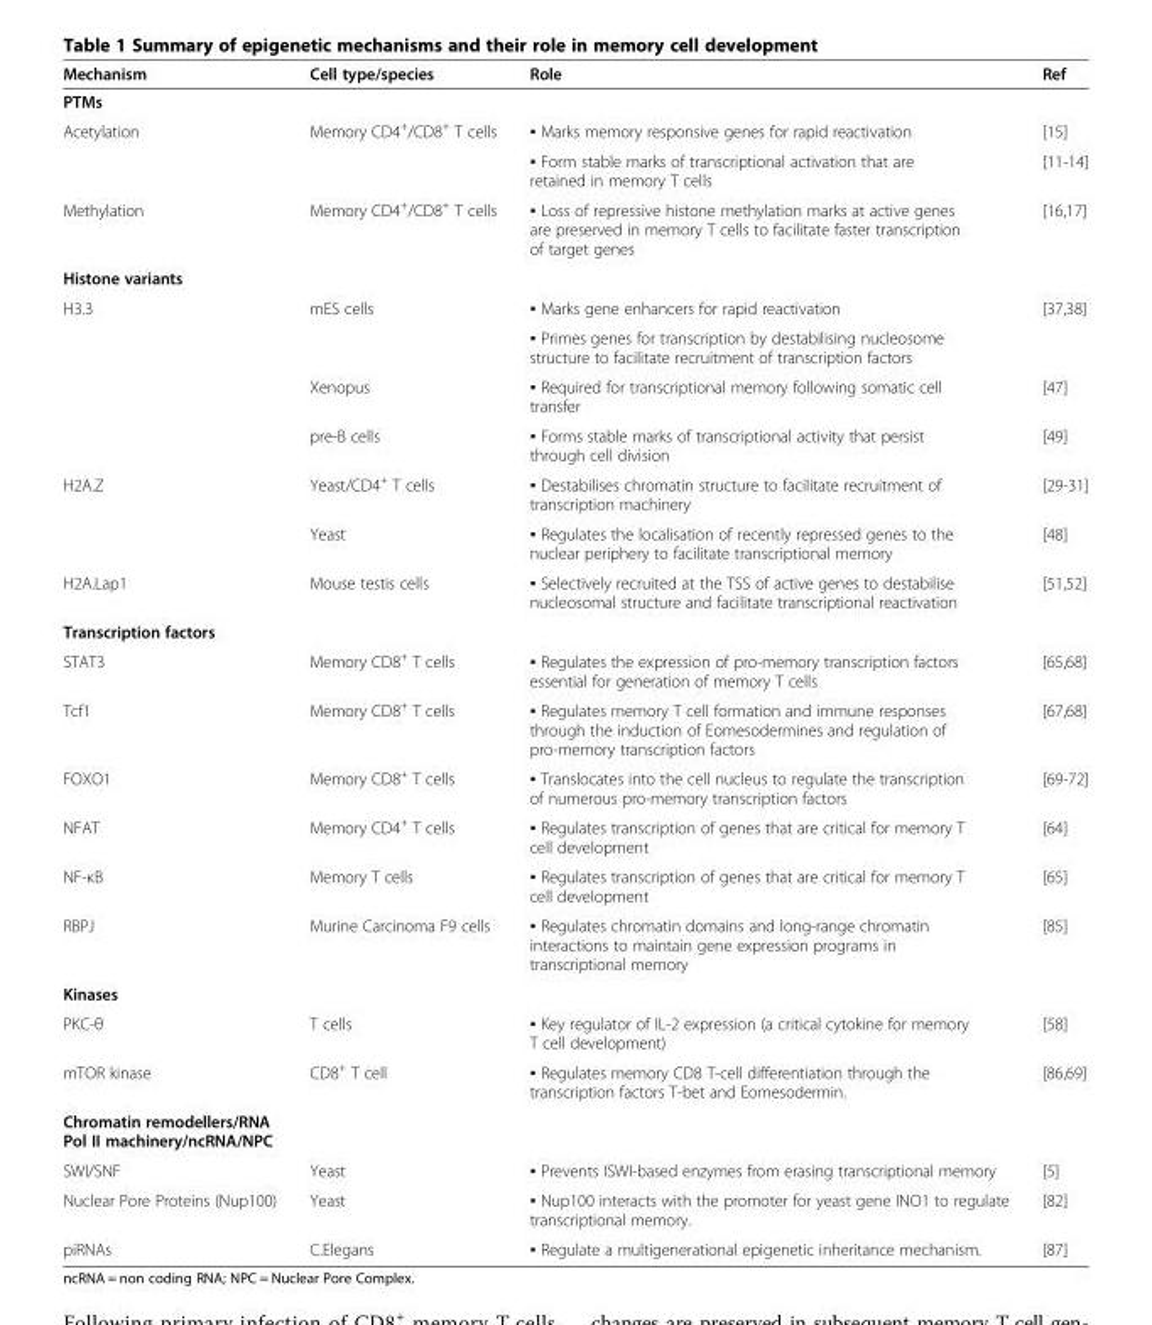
<table><thead><tr><td>Mechanism</td><td>Cell type/species</td><td>Role</td><td>Ref</td></tr></thead><tbody><tr><td colspan="4">PTMs</td></tr><tr><td rowspan="2">Acetylation</td><td rowspan="2">Memory CD4<sup>+</sup>/CD8<sup>+</sup> T cells</td><td>▪ Marks memory responsive genes for rapid reactivation</td><td>[15]</td></tr><tr><td>▪ Form stable marks of transcriptional activation that are retained in memory T cells</td><td>[11-14]</td></tr><tr><td>Methylation</td><td>Memory CD4<sup>+</sup>/CD8<sup>+</sup> T cells</td><td>▪ Loss of repressive histone methylation marks at active genes are preserved in memory T cells to facilitate faster transcription of target genes</td><td>[16,17]</td></tr><tr><td colspan="4">Histone variants</td></tr><tr><td rowspan="4">H3.3</td><td rowspan="2">mES cells</td><td>▪ Marks gene enhancers for rapid reactivation</td><td rowspan="2">[37,38]</td></tr><tr><td>▪ Primes genes for transcription by destabilising nucleosome structure to facilitate recruitment of transcription factors</td></tr><tr><td>Xenopus</td><td>▪ Required for transcriptional memory following somatic cell transfer</td><td>[47]</td></tr><tr><td>pre-B cells</td><td>▪ Forms stable marks of transcriptional activity that persist through cell division</td><td>[49]</td></tr><tr><td rowspan="2">H2A.Z</td><td>Yeast/CD4<sup>+</sup> T cells</td><td>▪ Destabilises chromatin structure to facilitate recruitment of transcription machinery</td><td>[29-31]</td></tr><tr><td>Yeast</td><td>▪ Regulates the localisation of recently repressed genes to the nuclear periphery to facilitate transcriptional memory</td><td>[48]</td></tr><tr><td>H2A.Lap1</td><td>Mouse testis cells</td><td>▪ Selectively recruited at the TSS of active genes to destabilise nucleosomal structure and facilitate transcriptional reactivation</td><td>[51,52]</td></tr><tr><td colspan="4">Transcription factors</td></tr><tr><td>STAT3</td><td>Memory CD8<sup>+</sup> T cells</td><td>▪ Regulates the expression of pro-memory transcription factors essential for generation of memory T cells</td><td>[65,68]</td></tr><tr><td>Tcf1</td><td>Memory CD8<sup>+</sup> T cells</td><td>▪ Regulates memory T cell formation and immune responses through the induction of Eomesodermines and regulation of pro-memory transcription factors</td><td>[67,68]</td></tr><tr><td>FOXO1</td><td>Memory CD8<sup>+</sup> T cells</td><td>▪ Translocates into the cell nucleus to regulate the transcription of numerous pro-memory transcription factors</td><td>[69-72]</td></tr><tr><td>NFAT</td><td>Memory CD4<sup>+</sup> T cells</td><td>▪ Regulates transcription of genes that are critical for memory T cell development</td><td>[64]</td></tr><tr><td>NF-κB</td><td>Memory T cells</td><td>▪ Regulates transcription of genes that are critical for memory T cell development</td><td>[65]</td></tr><tr><td>RBPJ</td><td>Murine Carcinoma F9 cells</td><td>▪ Regulates chromatin domains and long-range chromatin interactions to maintain gene expression programs in transcriptional memory</td><td>[85]</td></tr><tr><td colspan="4">Kinases</td></tr><tr><td>PKC-θ</td><td>T cells</td><td>▪ Key regulator of IL-2 expression (a critical cytokine for memory T cell development)</td><td>[58]</td></tr><tr><td>mTOR kinase</td><td>CD8<sup>+</sup> T cell</td><td>▪ Regulates memory CD8 T-cell differentiation through the transcription factors T-bet and Eomesodermin.</td><td>[86,69]</td></tr><tr><td colspan="4">Chromatin remodellers/RNA Pol II machinery/ncRNA/NPC</td></tr><tr><td>SWI/SNF</td><td>Yeast</td><td>▪ Prevents ISWI-based enzymes from erasing transcriptional memory</td><td>[5]</td></tr><tr><td>Nuclear Pore Proteins (Nup100)</td><td>Yeast</td><td>▪ Nup100 interacts with the promoter for yeast gene INO1 to regulate transcriptional memory.</td><td>[82]</td></tr><tr><td>piRNAs</td><td>C.Elegans</td><td>▪ Regulate a multigenerational epigenetic inheritance mechanism.</td><td>[87]</td></tr></tbody></table>